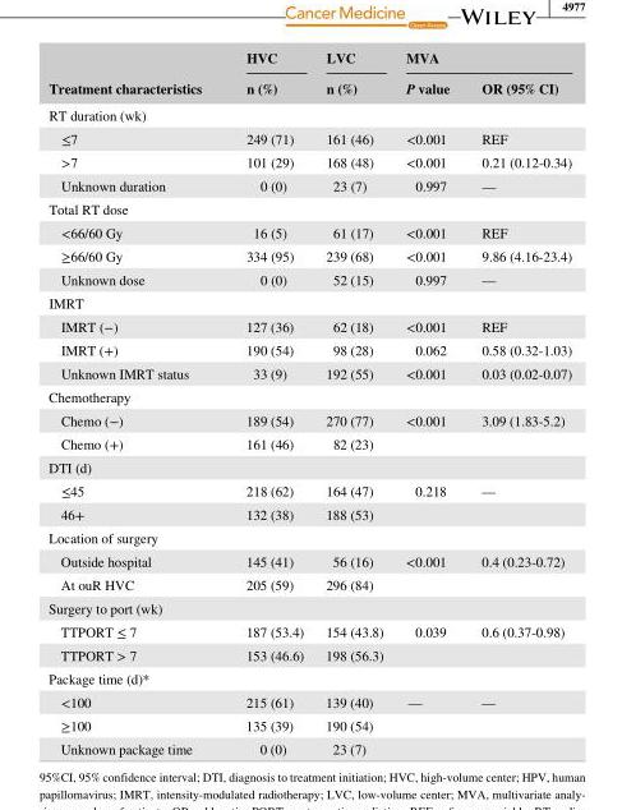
<table><thead><tr><td rowspan="2">Treatment characteristics</td><td rowspan="2">HVC n (%)</td><td rowspan="2">LVC n (%)</td><td colspan="2">MVA</td></tr><tr><td>P value</td><td>OR (95% CI)</td></tr></thead><tbody><tr><td colspan="5">RT duration (wk)</td></tr><tr><td>≤7</td><td>249 (71)</td><td>161 (46)</td><td>&lt;0.001</td><td>REF</td></tr><tr><td>&gt;7</td><td>101 (29)</td><td>168 (48)</td><td>&lt;0.001</td><td>0.21 (0.12- 0.34)</td></tr><tr><td>Unknown duration</td><td>0 (0)</td><td>23 (7)</td><td>0.997</td><td>—</td></tr><tr><td colspan="5">Total RT dose</td></tr><tr><td>&lt;66/60 Gy</td><td>16 (5)</td><td>61 (17)</td><td>&lt;0.001</td><td>REF</td></tr><tr><td>≥66/60 Gy</td><td>334 (95)</td><td>239 (68)</td><td>&lt;0.001</td><td>9.86 (4.16- 23.4)</td></tr><tr><td>Unknown dose</td><td>0 (0)</td><td>52 (15)</td><td>0.997</td><td>—</td></tr><tr><td colspan="5">IMRT</td></tr><tr><td>IMRT (−)</td><td>127 (36)</td><td>62 (18)</td><td>&lt;0.001</td><td>REF</td></tr><tr><td>IMRT (+)</td><td>190 (54)</td><td>98 (28)</td><td>0.062</td><td>0.58 (0.32- 1.03)</td></tr><tr><td>Unknown IMRT status</td><td>33 (9)</td><td>192 (55)</td><td>&lt;0.001</td><td>0.03 (0.02- 0.07)</td></tr><tr><td colspan="5">Chemotherapy</td></tr><tr><td>Chemo (−)</td><td>189 (54)</td><td>270 (77)</td><td>&lt;0.001</td><td>3.09 (1.83- 5.2)</td></tr><tr><td>Chemo (+)</td><td>161 (46)</td><td>82 (23)</td><td></td><td></td></tr><tr><td colspan="5">DTI (d)</td></tr><tr><td>≤45</td><td>218 (62)</td><td>164 (47)</td><td>0.218</td><td>—</td></tr><tr><td>46+</td><td>132 (38)</td><td>188 (53)</td><td></td><td></td></tr><tr><td colspan="5">Location of surgery</td></tr><tr><td>Outside hospital</td><td>145 (41)</td><td>56 (16)</td><td>&lt;0.001</td><td>0.4 (0.23- 0.72)</td></tr><tr><td>At ouR HVC</td><td>205 (59)</td><td>296 (84)</td><td></td><td></td></tr><tr><td colspan="5">Surgery to port (wk)</td></tr><tr><td>TTPORT ≤ 7</td><td>187 (53.4)</td><td>154 (43.8)</td><td>0.039</td><td>0.6 (0.37- 0.98)</td></tr><tr><td>TTPORT &gt; 7</td><td>153 (46.6)</td><td>198 (56.3)</td><td></td><td></td></tr><tr><td colspan="5">Package time (d)*</td></tr><tr><td>&lt;100</td><td>215 (61)</td><td>139 (40)</td><td>—</td><td>—</td></tr><tr><td>≥100</td><td>135 (39)</td><td>190 (54)</td><td></td><td></td></tr><tr><td>Unknown package time</td><td>0 (0)</td><td>23 (7)</td><td></td><td></td></tr></tbody></table>